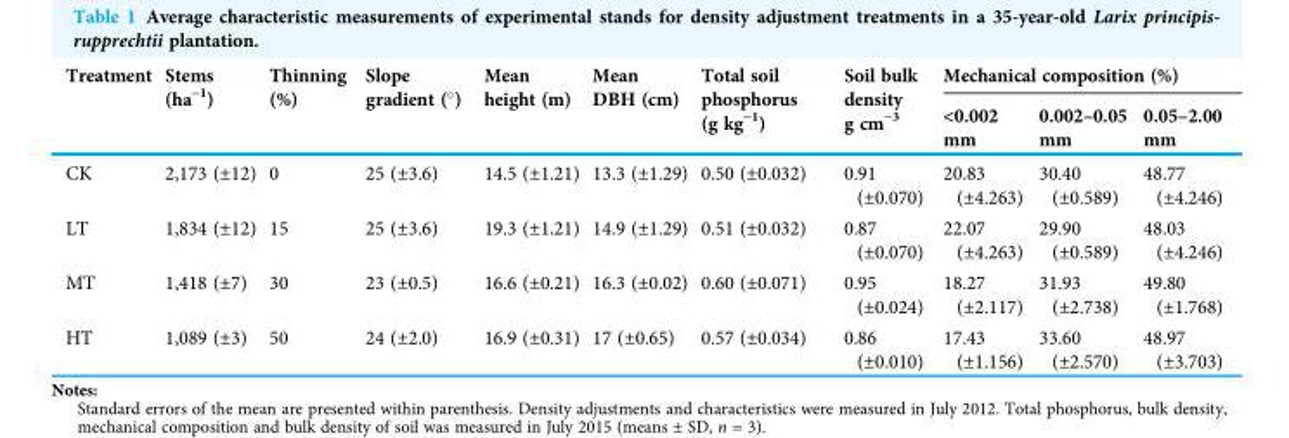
<table><thead><tr><td rowspan="2">Treatment</td><td rowspan="2">Stems (ha<sup>-1</sup>)</td><td rowspan="2">Thinning (%)</td><td rowspan="2">Slope gradient (°)</td><td rowspan="2">Mean height (m)</td><td rowspan="2">Mean DBH (cm)</td><td rowspan="2">Total soil phosphorus (g kg<sup>-1</sup>)</td><td rowspan="2">Soil bulk density g cm<sup>-3</sup></td><td colspan="3">Mechanical composition (%)</td></tr><tr><td>&lt;0.002 mm</td><td>0.002–0.05 mm</td><td>0.05–2.00 mm</td></tr></thead><tbody><tr><td>CK</td><td>2,173 (±12)</td><td>0</td><td>25 (±3.6)</td><td>14.5 (±1.21)</td><td>13.3 (±1.29)</td><td>0.50 (±0.032)</td><td>0.91 (±0.070)</td><td>20.83 (±4.263)</td><td>30.40 (±0.589)</td><td>48.77 (±4.246)</td></tr><tr><td>LT</td><td>1,834 (±12)</td><td>15</td><td>25 (±3.6)</td><td>19.3 (±1.21)</td><td>14.9 (±1.29)</td><td>0.51 (±0.032)</td><td>0.87 (±0.070)</td><td>22.07 (±4.263)</td><td>29.90 (±0.589)</td><td>48.03 (±4.246)</td></tr><tr><td>MT</td><td>1,418 (±7)</td><td>30</td><td>23 (±0.5)</td><td>16.6 (±0.21)</td><td>16.3 (±0.02)</td><td>0.60 (±0.071)</td><td>0.95 (±0.024)</td><td>18.27 (±2.117)</td><td>31.93 (±2.738)</td><td>49.80 (±1.768)</td></tr><tr><td>HT</td><td>1,089 (±3)</td><td>50</td><td>24 (±2.0)</td><td>16.9 (±0.31)</td><td>17 (±0.65)</td><td>0.57 (±0.034)</td><td>0.86 (±0.010)</td><td>17.43 (±1.156)</td><td>33.60 (±2.570)</td><td>48.97 (±3.703)</td></tr></tbody></table>